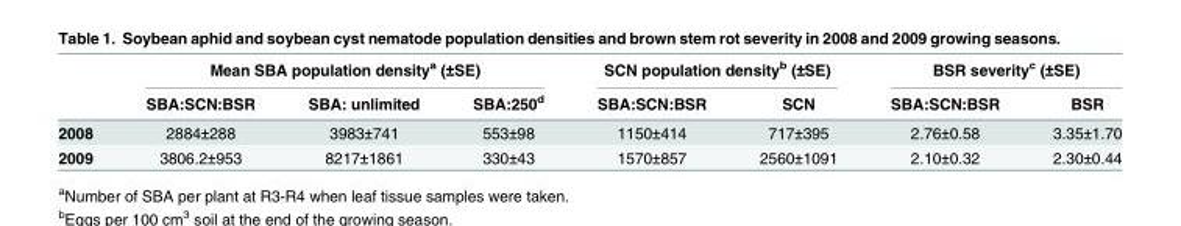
<table><thead><tr><td rowspan="2"></td><td colspan="3">Mean SBA population density<sup>a</sup> (±SE)</td><td colspan="2">SCN population density<sup>b</sup> (±SE)</td><td colspan="2">BSR severity<sup>c</sup> (±SE)</td></tr><tr><td>SBA:SCN:BSR</td><td>SBA: unlimited</td><td>SBA:250<sup>d</sup></td><td>SBA:SCN:BSR</td><td>SCN</td><td>SBA:SCN:BSR</td><td>BSR</td></tr></thead><tbody><tr><td>2008</td><td>2884±288</td><td>3983±741</td><td>553±98</td><td>1150±414</td><td>717±395</td><td>2.76±0.58</td><td>3.35±1.70</td></tr><tr><td>2009</td><td>3806.2±953</td><td>8217±1861</td><td>330±43</td><td>1570±857</td><td>2560±1091</td><td>2.10±0.32</td><td>2.30±0.44</td></tr></tbody></table>